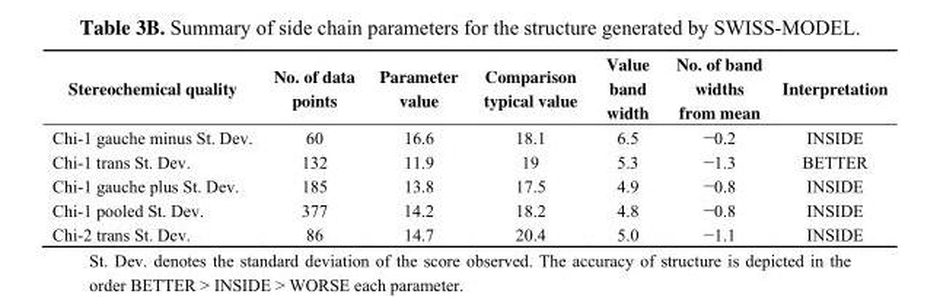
<table><thead><tr><td>Stereochemical quality</td><td>No. of data points</td><td>Parameter value</td><td>Comparison typical value</td><td>Value band width</td><td>No. of band widths from mean</td><td>Interpretation</td></tr></thead><tbody><tr><td>Chi-1 gauche minus St. Dev.</td><td>60</td><td>16.6</td><td>18.1</td><td>6.5</td><td>−0.2</td><td>INSIDE</td></tr><tr><td>Chi-1 trans St. Dev.</td><td>132</td><td>11.9</td><td>19</td><td>5.3</td><td>−1.3</td><td>BETTER</td></tr><tr><td>Chi-1 gauche plus St. Dev.</td><td>185</td><td>13.8</td><td>17.5</td><td>4.9</td><td>−0.8</td><td>INSIDE</td></tr><tr><td>Chi-1 pooled St. Dev.</td><td>377</td><td>14.2</td><td>18.2</td><td>4.8</td><td>−0.8</td><td>INSIDE</td></tr><tr><td>Chi-2 trans St. Dev.</td><td>86</td><td>14.7</td><td>20.4</td><td>5.0</td><td>−1.1</td><td>INSIDE</td></tr></tbody></table>